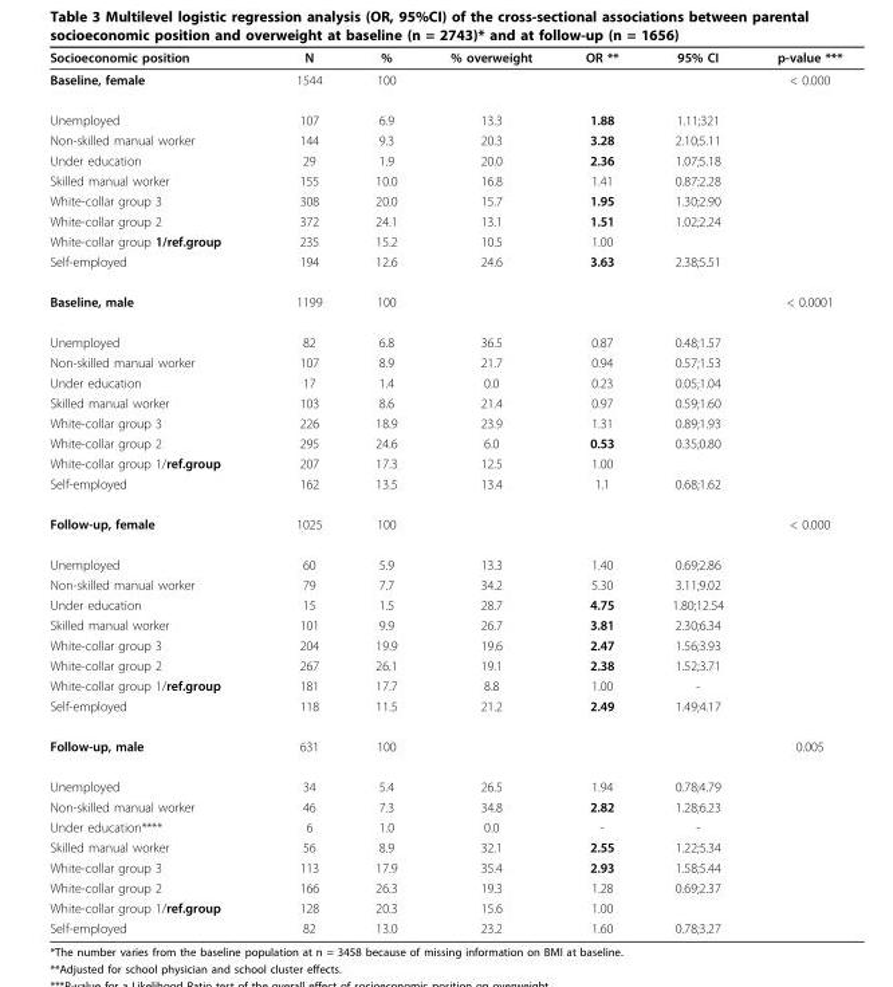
<table><thead><tr><td>Socioeconomic position</td><td>N</td><td>%</td><td>% overweight</td><td>OR **</td><td>95% CI</td><td>p-value ***</td></tr></thead><tbody><tr><td>Baseline, female</td><td>1544</td><td>100</td><td></td><td></td><td></td><td>&lt; 0.000</td></tr><tr><td>Unemployed</td><td>107</td><td>6.9</td><td>13.3</td><td>1.88</td><td>1.11;321</td><td></td></tr><tr><td>Non-skilled manual worker</td><td>144</td><td>9.3</td><td>20.3</td><td>3.28</td><td>2.10;5.11</td><td></td></tr><tr><td>Under education</td><td>29</td><td>1.9</td><td>20.0</td><td>2.36</td><td>1.07;5.18</td><td></td></tr><tr><td>Skilled manual worker</td><td>155</td><td>10.0</td><td>16.8</td><td>1.41</td><td>0.87;2.28</td><td></td></tr><tr><td>White-collar group 3</td><td>308</td><td>20.0</td><td>15.7</td><td>1.95</td><td>1.30;2.90</td><td></td></tr><tr><td>White-collar group 2</td><td>372</td><td>24.1</td><td>13.1</td><td>1.51</td><td>1.02;2.24</td><td></td></tr><tr><td>White-collar group 1/ref.group</td><td>235</td><td>15.2</td><td>10.5</td><td>1.00</td><td></td><td></td></tr><tr><td>Self-employed</td><td>194</td><td>12.6</td><td>24.6</td><td>3.63</td><td>2.38;5.51</td><td></td></tr><tr><td>Baseline, male</td><td>1199</td><td>100</td><td></td><td></td><td></td><td>&lt; 0.0001</td></tr><tr><td>Unemployed</td><td>82</td><td>6.8</td><td>36.5</td><td>0.87</td><td>0.48;1.57</td><td></td></tr><tr><td>Non-skilled manual worker</td><td>107</td><td>8.9</td><td>21.7</td><td>0.94</td><td>0.57;1.53</td><td></td></tr><tr><td>Under education</td><td>17</td><td>1.4</td><td>0.0</td><td>0.23</td><td>0.05;1.04</td><td></td></tr><tr><td>Skilled manual worker</td><td>103</td><td>8.6</td><td>21.4</td><td>0.97</td><td>0.59;1.60</td><td></td></tr><tr><td>White-collar group 3</td><td>226</td><td>18.9</td><td>23.9</td><td>1.31</td><td>0.89;1.93</td><td></td></tr><tr><td>White-collar group 2</td><td>295</td><td>24.6</td><td>6.0</td><td>0.53</td><td>0.35;0.80</td><td></td></tr><tr><td>White-collar group 1/ref.group</td><td>207</td><td>17.3</td><td>12.5</td><td>1.00</td><td></td><td></td></tr><tr><td>Self-employed</td><td>162</td><td>13.5</td><td>13.4</td><td>1.1</td><td>0.68;1.62</td><td></td></tr><tr><td>Follow-up, female</td><td>1025</td><td>100</td><td></td><td></td><td></td><td>&lt; 0.000</td></tr><tr><td>Unemployed</td><td>60</td><td>5.9</td><td>13.3</td><td>1.40</td><td>0.69;2.86</td><td></td></tr><tr><td>Non-skilled manual worker</td><td>79</td><td>7.7</td><td>34.2</td><td>5.30</td><td>3.11;9.02</td><td></td></tr><tr><td>Under education</td><td>15</td><td>1.5</td><td>28.7</td><td>4.75</td><td>1.80;12.54</td><td></td></tr><tr><td>Skilled manual worker</td><td>101</td><td>9.9</td><td>26.7</td><td>3.81</td><td>2.30;6.34</td><td></td></tr><tr><td>White-collar group 3</td><td>204</td><td>19.9</td><td>19.6</td><td>2.47</td><td>1.56;3.93</td><td></td></tr><tr><td>White-collar group 2</td><td>267</td><td>26.1</td><td>19.1</td><td>2.38</td><td>1.52;3.71</td><td></td></tr><tr><td>White-collar group 1/ref.group</td><td>181</td><td>17.7</td><td>8.8</td><td>1.00</td><td>-</td><td></td></tr><tr><td>Self-employed</td><td>118</td><td>11.5</td><td>21.2</td><td>2.49</td><td>1.49;4.17</td><td></td></tr><tr><td>Follow-up, male</td><td>631</td><td>100</td><td></td><td></td><td></td><td>0.005</td></tr><tr><td>Unemployed</td><td>34</td><td>5.4</td><td>26.5</td><td>1.94</td><td>0.78;4.79</td><td></td></tr><tr><td>Non-skilled manual worker</td><td>46</td><td>7.3</td><td>34.8</td><td>2.82</td><td>1.28;6.23</td><td></td></tr><tr><td>Under education****</td><td>6</td><td>1.0</td><td>0.0</td><td>-</td><td>-</td><td></td></tr><tr><td>Skilled manual worker</td><td>56</td><td>8.9</td><td>32.1</td><td>2.55</td><td>1.22;5.34</td><td></td></tr><tr><td>White-collar group 3</td><td>113</td><td>17.9</td><td>35.4</td><td>2.93</td><td>1.58;5.44</td><td></td></tr><tr><td>White-collar group 2</td><td>166</td><td>26.3</td><td>19.3</td><td>1.28</td><td>0.69;2.37</td><td></td></tr><tr><td>White-collar group 1/ref.group</td><td>128</td><td>20.3</td><td>15.6</td><td>1.00</td><td></td><td></td></tr><tr><td>Self-employed</td><td>82</td><td>13.0</td><td>23.2</td><td>1.60</td><td>0.78;3.27</td><td></td></tr></tbody></table>